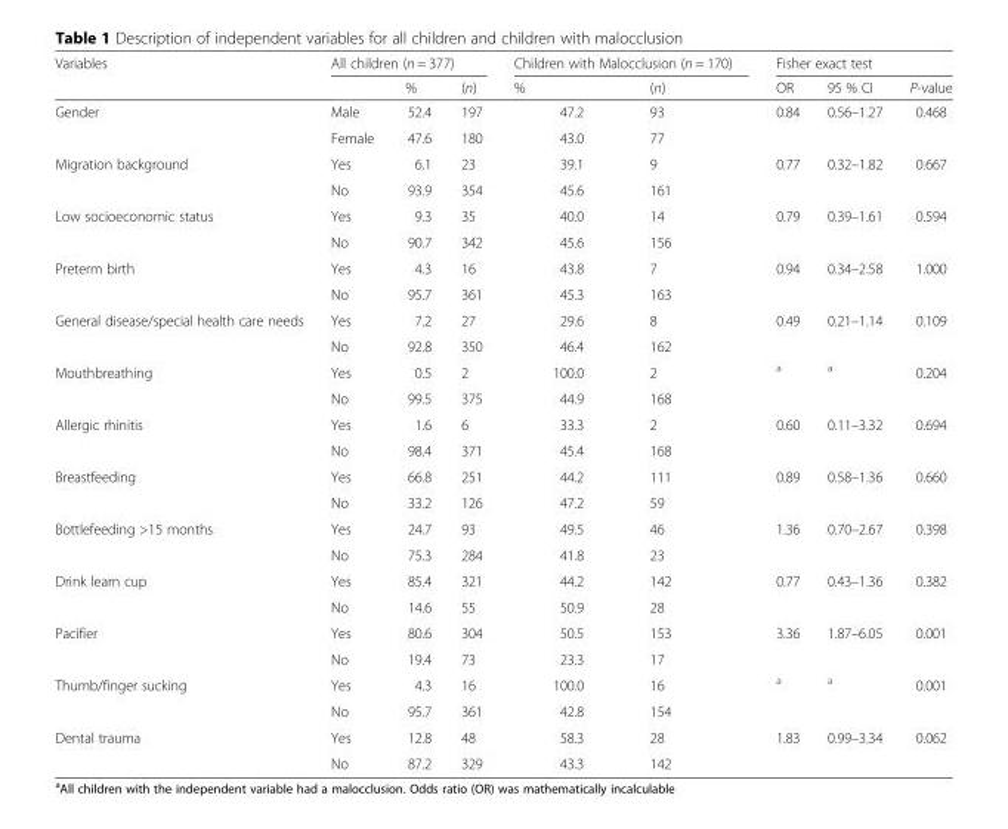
<table><thead><tr><td rowspan="2">Variables</td><td colspan="3">All children (n = 377)</td><td colspan="2">Children with Malocclusion (n = 170)</td><td colspan="3">Fisher exact test</td></tr><tr><td></td><td>%</td><td>(n)</td><td>%</td><td>(n)</td><td>OR</td><td>95 % CI</td><td>P-value</td></tr></thead><tbody><tr><td rowspan="2">Gender</td><td>Male</td><td>52.4</td><td>197</td><td>47.2</td><td>93</td><td rowspan="2">0.84</td><td rowspan="2">0.56–1.27</td><td rowspan="2">0.468</td></tr><tr><td>Female</td><td>47.6</td><td>180</td><td>43.0</td><td>77</td></tr><tr><td rowspan="2">Migration background</td><td>Yes</td><td>6.1</td><td>23</td><td>39.1</td><td>9</td><td rowspan="2">0.77</td><td rowspan="2">0.32–1.82</td><td rowspan="2">0.667</td></tr><tr><td>No</td><td>93.9</td><td>354</td><td>45.6</td><td>161</td></tr><tr><td rowspan="2">Low socioeconomic status</td><td>Yes</td><td>9.3</td><td>35</td><td>40.0</td><td>14</td><td rowspan="2">0.79</td><td rowspan="2">0.39–1.61</td><td rowspan="2">0.594</td></tr><tr><td>No</td><td>90.7</td><td>342</td><td>45.6</td><td>156</td></tr><tr><td rowspan="2">Preterm birth</td><td>Yes</td><td>4.3</td><td>16</td><td>43.8</td><td>7</td><td rowspan="2">0.94</td><td rowspan="2">0.34–2.58</td><td rowspan="2">1.000</td></tr><tr><td>No</td><td>95.7</td><td>361</td><td>45.3</td><td>163</td></tr><tr><td rowspan="2">General disease/special health care needs</td><td>Yes</td><td>7.2</td><td>27</td><td>29.6</td><td>8</td><td rowspan="2">0.49</td><td rowspan="2">0.21–1.14</td><td rowspan="2">0.109</td></tr><tr><td>No</td><td>92.8</td><td>350</td><td>46.4</td><td>162</td></tr><tr><td rowspan="2">Mouthbreathing</td><td>Yes</td><td>0.5</td><td>2</td><td>100.0</td><td>2</td><td rowspan="2"><sup>a</sup></td><td rowspan="2"><sup>a</sup></td><td rowspan="2">0.204</td></tr><tr><td>No</td><td>99.5</td><td>375</td><td>44.9</td><td>168</td></tr><tr><td rowspan="2">Allergic rhinitis</td><td>Yes</td><td>1.6</td><td>6</td><td>33.3</td><td>2</td><td rowspan="2">0.60</td><td rowspan="2">0.11–3.32</td><td rowspan="2">0.694</td></tr><tr><td>No</td><td>98.4</td><td>371</td><td>45.4</td><td>168</td></tr><tr><td rowspan="2">Breastfeeding</td><td>Yes</td><td>66.8</td><td>251</td><td>44.2</td><td>111</td><td rowspan="2">0.89</td><td rowspan="2">0.58–1.36</td><td rowspan="2">0.660</td></tr><tr><td>No</td><td>33.2</td><td>126</td><td>47.2</td><td>59</td></tr><tr><td rowspan="2">Bottlefeeding &gt;15 months</td><td>Yes</td><td>24.7</td><td>93</td><td>49.5</td><td>46</td><td rowspan="2">1.36</td><td rowspan="2">0.70–2.67</td><td rowspan="2">0.398</td></tr><tr><td>No</td><td>75.3</td><td>284</td><td>41.8</td><td>23</td></tr><tr><td rowspan="2">Drink learn cup</td><td>Yes</td><td>85.4</td><td>321</td><td>44.2</td><td>142</td><td rowspan="2">0.77</td><td rowspan="2">0.43–1.36</td><td rowspan="2">0.382</td></tr><tr><td>No</td><td>14.6</td><td>55</td><td>50.9</td><td>28</td></tr><tr><td rowspan="2">Pacifier</td><td>Yes</td><td>80.6</td><td>304</td><td>50.5</td><td>153</td><td rowspan="2">3.36</td><td rowspan="2">1.87–6.05</td><td rowspan="2">0.001</td></tr><tr><td>No</td><td>19.4</td><td>73</td><td>23.3</td><td>17</td></tr><tr><td rowspan="2">Thumb/finger sucking</td><td>Yes</td><td>4.3</td><td>16</td><td>100.0</td><td>16</td><td rowspan="2"><sup>a</sup></td><td rowspan="2"><sup>a</sup></td><td rowspan="2">0.001</td></tr><tr><td>No</td><td>95.7</td><td>361</td><td>42.8</td><td>154</td></tr><tr><td rowspan="2">Dental trauma</td><td>Yes</td><td>12.8</td><td>48</td><td>58.3</td><td>28</td><td rowspan="2">1.83</td><td rowspan="2">0.99–3.34</td><td rowspan="2">0.062</td></tr><tr><td>No</td><td>87.2</td><td>329</td><td>43.3</td><td>142</td></tr></tbody></table>